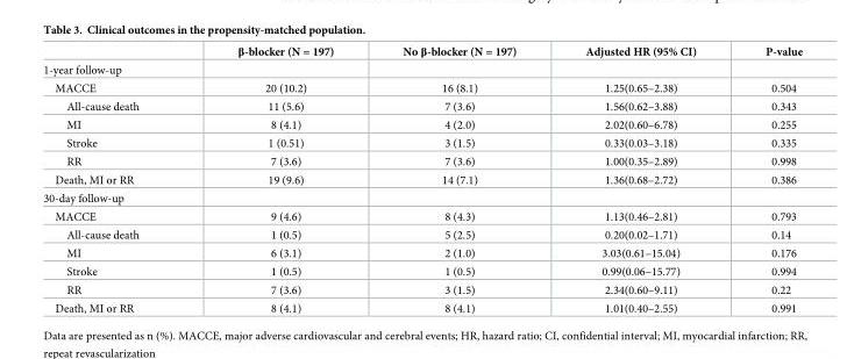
<table><thead><tr><td></td><td>β-blocker (N = 197)</td><td>No β-blocker (N = 197)</td><td>Adjusted HR (95% CI)</td><td>P-value</td></tr></thead><tbody><tr><td colspan="5">1-year follow-up</td></tr><tr><td>MACCE</td><td>20 (10.2)</td><td>16 (8.1)</td><td>1.25(0.65–2.38)</td><td>0.504</td></tr><tr><td>All-cause death</td><td>11 (5.6)</td><td>7 (3.6)</td><td>1.56(0.62–3.88)</td><td>0.343</td></tr><tr><td>MI</td><td>8 (4.1)</td><td>4 (2.0)</td><td>2.02(0.60–6.78)</td><td>0.255</td></tr><tr><td>Stroke</td><td>1 (0.51)</td><td>3 (1.5)</td><td>0.33(0.03–3.18)</td><td>0.335</td></tr><tr><td>RR</td><td>7 (3.6)</td><td>7 (3.6)</td><td>1.00(0.35–2.89)</td><td>0.998</td></tr><tr><td>Death, MI or RR</td><td>19 (9.6)</td><td>14 (7.1)</td><td>1.36(0.68–2.72)</td><td>0.386</td></tr><tr><td colspan="5">30-day follow-up</td></tr><tr><td>MACCE</td><td>9 (4.6)</td><td>8 (4.3)</td><td>1.13(0.46–2.81)</td><td>0.793</td></tr><tr><td>All-cause death</td><td>1 (0.5)</td><td>5 (2.5)</td><td>0.20(0.02–1.71)</td><td>0.14</td></tr><tr><td>MI</td><td>6 (3.1)</td><td>2 (1.0)</td><td>3.03(0.61–15.04)</td><td>0.176</td></tr><tr><td>Stroke</td><td>1 (0.5)</td><td>1 (0.5)</td><td>0.99(0.06–15.77)</td><td>0.994</td></tr><tr><td>RR</td><td>7 (3.6)</td><td>3 (1.5)</td><td>2.34(0.60–9.11)</td><td>0.22</td></tr><tr><td>Death, MI or RR</td><td>8 (4.1)</td><td>8 (4.1)</td><td>1.01(0.40–2.55)</td><td>0.991</td></tr></tbody></table>